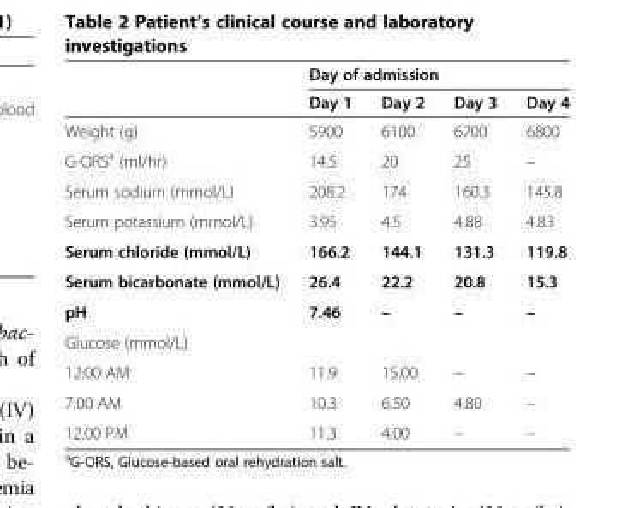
<table><thead><tr><td rowspan="2"></td><td colspan="4">Day of admission</td></tr><tr><td>Day 1</td><td>Day 2</td><td>Day 3</td><td>Day 4</td></tr></thead><tbody><tr><td>Weight (g)</td><td>5900</td><td>6100</td><td>6700</td><td>6800</td></tr><tr><td>G-ORS<sup>a</sup> (ml/hr)</td><td>14.5</td><td>20</td><td>25</td><td>–</td></tr><tr><td>Serum sodium (mmol/L)</td><td>208.2</td><td>174</td><td>160.3</td><td>145.8</td></tr><tr><td>Serum potassium (mmol/L)</td><td>3.95</td><td>4.5</td><td>4.88</td><td>4.83</td></tr><tr><td>Serum chloride (mmol/L)</td><td>166.2</td><td>144.1</td><td>131.3</td><td>119.8</td></tr><tr><td>Serum bicarbonate (mmol/L)</td><td>26.4</td><td>22.2</td><td>20.8</td><td>15.3</td></tr><tr><td>pH</td><td>7.46</td><td>–</td><td>–</td><td>–</td></tr><tr><td colspan="5">Glucose (mmol/L)</td></tr><tr><td>12:00 AM</td><td>11.9</td><td>15.00</td><td>–</td><td>–</td></tr><tr><td>7.00 AM</td><td>10.3</td><td>6.50</td><td>4.80</td><td>–</td></tr><tr><td>12.00 PM</td><td>11.3</td><td>4.00</td><td>–</td><td>–</td></tr></tbody></table>